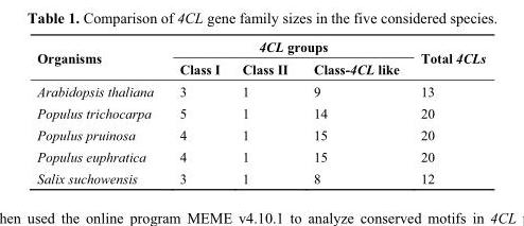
<table><thead><tr><td rowspan="2">Organisms</td><td colspan="3">4CL groups</td><td rowspan="2">Total 4CLs</td></tr><tr><td>Class I</td><td>Class II</td><td>Class-4CL like</td></tr></thead><tbody><tr><td>Arabidopsis thaliana</td><td>3</td><td>1</td><td>9</td><td>13</td></tr><tr><td>Populus trichocarpa</td><td>5</td><td>1</td><td>14</td><td>20</td></tr><tr><td>Populus pruinosa</td><td>4</td><td>1</td><td>15</td><td>20</td></tr><tr><td>Populus euphratica</td><td>4</td><td>1</td><td>15</td><td>20</td></tr><tr><td>Salix suchowensis</td><td>3</td><td>1</td><td>8</td><td>12</td></tr></tbody></table>